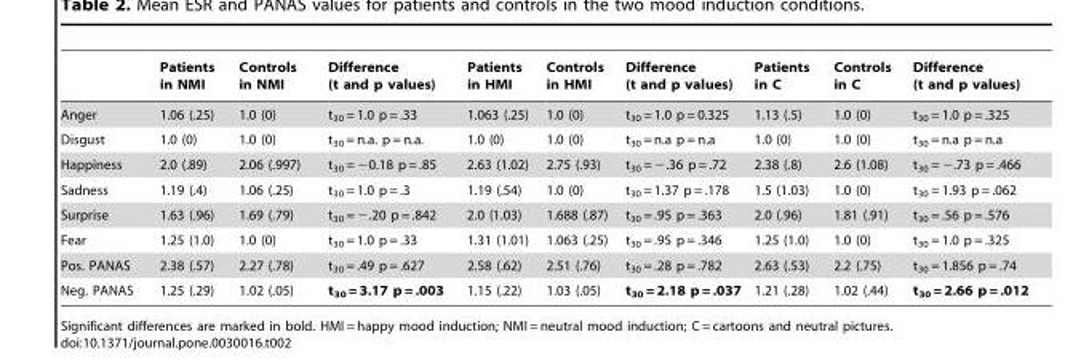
<table><thead><tr><td></td><td>Patients in NMI</td><td>Controls in NMI</td><td>Difference (t and p values)</td><td>Patients in HMI</td><td>Controls in HMI</td><td>Difference (t and p values)</td><td>Patients in C</td><td>Controls in C</td><td>Difference (t and p values)</td></tr></thead><tbody><tr><td>Anger</td><td>1.06 (.25)</td><td>1.0 (0)</td><td>t<sub>30</sub> = 1.0 p = .33</td><td>1.063 (.25)</td><td>1.0 (0)</td><td>t<sub>30</sub> = 1.0 p = 0.325</td><td>1.13 (.5)</td><td>1.0 (0)</td><td>t<sub>30</sub> = 1.0 p = .325</td></tr><tr><td>Disgust</td><td>1.0 (0)</td><td>1.0 (0)</td><td>t<sub>30</sub> = n.a. p = n.a.</td><td>1.0 (0)</td><td>1.0 (0)</td><td>t<sub>30</sub> = n.a p = n.a</td><td>1.0 (0)</td><td>1.0 (0)</td><td>t<sub>30</sub> = n.a p = n.a</td></tr><tr><td>Happiness</td><td>2.0 (.89)</td><td>2.06 (.997)</td><td>t<sub>30</sub> = −0.18 p = .85</td><td>2.63 (1.02)</td><td>2.75 (.93)</td><td>t<sub>30</sub> = −.36 p = .72</td><td>2.38 (.8)</td><td>2.6 (1.08)</td><td>t<sub>30</sub> = −.73 p = .466</td></tr><tr><td>Sadness</td><td>1.19 (.4)</td><td>1.06 (.25)</td><td>t<sub>30</sub> = 1.0 p = .3</td><td>1.19 (.54)</td><td>1.0 (0)</td><td>t<sub>30</sub> = 1.37 p = .178</td><td>1.5 (1.03)</td><td>1.0 (0)</td><td>t<sub>30</sub> = 1.93 p = .062</td></tr><tr><td>Surprise</td><td>1.63 (.96)</td><td>1.69 (.79)</td><td>t<sub>30</sub> = −.20 p = .842</td><td>2.0 (1.03)</td><td>1.688 (.87)</td><td>t<sub>30</sub> = .95 p = .363</td><td>2.0 (.96)</td><td>1.81 (.91)</td><td>t<sub>30</sub> = .56 p = .576</td></tr><tr><td>Fear</td><td>1.25 (1.0)</td><td>1.0 (0)</td><td>t<sub>30</sub> = 1.0 p = .33</td><td>1.31 (1.01)</td><td>1.063 (.25)</td><td>t<sub>30</sub> = .95 p = .346</td><td>1.25 (1.0)</td><td>1.0 (0)</td><td>t<sub>30</sub> = 1.0 p = .325</td></tr><tr><td>Pos. PANAS</td><td>2.38 (.57)</td><td>2.27 (.78)</td><td>t<sub>30</sub> = .49 p = .627</td><td>2.58 (.62)</td><td>2.51 (.76)</td><td>t<sub>30</sub> = .28 p = .782</td><td>2.63 (.53)</td><td>2.2 (.75)</td><td>t<sub>30</sub> = 1.856 p = .74</td></tr><tr><td>Neg. PANAS</td><td>1.25 (.29)</td><td>1.02 (.05)</td><td>t<sub>30</sub> = 3.17 p = .003</td><td>1.15 (.22)</td><td>1.03 (.05)</td><td>t<sub>30</sub> = 2.18 p = .037</td><td>1.21 (.28)</td><td>1.02 (.44)</td><td>t<sub>30</sub> = 2.66 p = .012</td></tr></tbody></table>